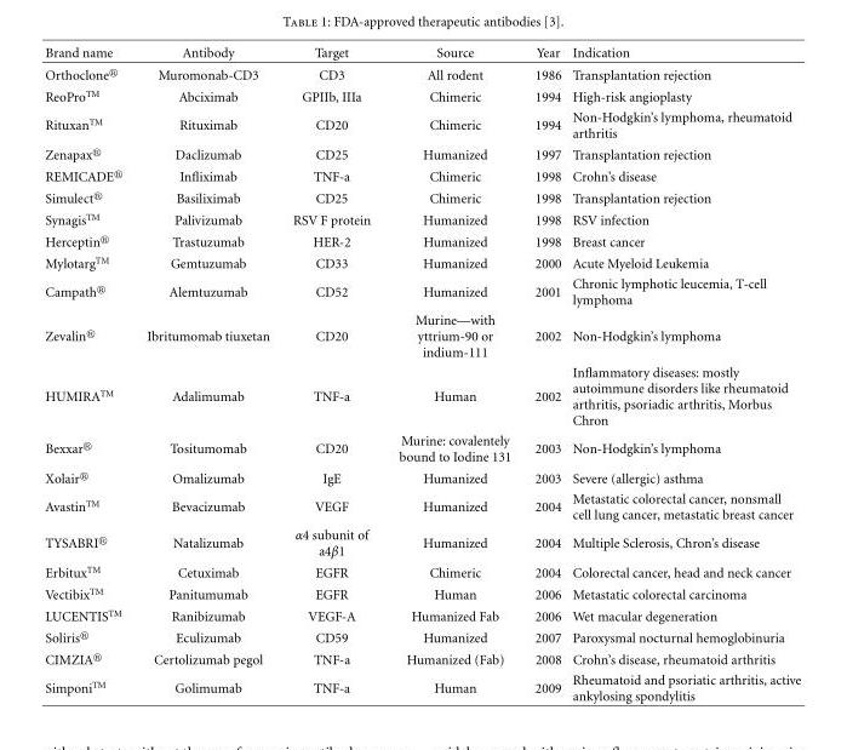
<table><thead><tr><td>Brand name</td><td>Antibody</td><td>Target</td><td>Source</td><td>Year</td><td>Indication</td></tr></thead><tbody><tr><td>Orthoclone<sup>®</sup></td><td>Muromonab-CD3</td><td>CD3</td><td>All rodent</td><td>1986</td><td>Transplantation rejection</td></tr><tr><td>ReoPro<sup>TM</sup></td><td>Abciximab</td><td>GPIIb, IIIa</td><td>Chimeric</td><td>1994</td><td>High-risk angioplasty</td></tr><tr><td>Rituxan<sup>TM</sup></td><td>Rituximab</td><td>CD20</td><td>Chimeric</td><td>1994</td><td>Non-Hodgkin’s lymphoma, rheumatoid arthritis</td></tr><tr><td>Zenapax<sup>®</sup></td><td>Daclizumab</td><td>CD25</td><td>Humanized</td><td>1997</td><td>Transplantation rejection</td></tr><tr><td>REMICADE<sup>®</sup></td><td>Infliximab</td><td>TNF-a</td><td>Chimeric</td><td>1998</td><td>Crohn’s disease</td></tr><tr><td>Simulect<sup>®</sup></td><td>Basiliximab</td><td>CD25</td><td>Chimeric</td><td>1998</td><td>Transplantation rejection</td></tr><tr><td>Synagis<sup>TM</sup></td><td>Palivizumab</td><td>RSV F protein</td><td>Humanized</td><td>1998</td><td>RSV infection</td></tr><tr><td>Herceptin<sup>®</sup></td><td>Trastuzumab</td><td>HER-2</td><td>Humanized</td><td>1998</td><td>Breast cancer</td></tr><tr><td>Mylotarg<sup>TM</sup></td><td>Gemtuzumab</td><td>CD33</td><td>Humanized</td><td>2000</td><td>Acute Myeloid Leukemia</td></tr><tr><td>Campath<sup>®</sup></td><td>Alemtuzumab</td><td>CD52</td><td>Humanized</td><td>2001</td><td>Chronic lymphotic leucemia, T-cell lymphoma</td></tr><tr><td>Zevalin<sup>®</sup></td><td>Ibritumomab tiuxetan</td><td>CD20</td><td>Murine—with yttrium-90 or indium-111</td><td>2002</td><td>Non-Hodgkin’s lymphoma</td></tr><tr><td>HUMIRA<sup>TM</sup></td><td>Adalimumab</td><td>TNF-a</td><td>Human</td><td>2002</td><td>Inflammatory diseases: mostly autoimmune disorders like rheumatoid arthritis, psoriadic arthritis, Morbus Chron</td></tr><tr><td>Bexxar<sup>®</sup></td><td>Tositumomab</td><td>CD20</td><td>Murine: covalentely bound to Iodine 131</td><td>2003</td><td>Non-Hodgkin’s lymphoma</td></tr><tr><td>Xolair<sup>®</sup></td><td>Omalizumab</td><td>IgE</td><td>Humanized</td><td>2003</td><td>Severe (allergic) asthma</td></tr><tr><td>Avastin<sup>TM</sup></td><td>Bevacizumab</td><td>VEGF</td><td>Humanized</td><td>2004</td><td>Metastatic colorectal cancer, nonsmall cell lung cancer, metastatic breast cancer</td></tr><tr><td>TYSABRI<sup>®</sup></td><td>Natalizumab</td><td>α4 subunit of a4β1</td><td>Humanized</td><td>2004</td><td>Multiple Sclerosis, Chron’s disease</td></tr><tr><td>Erbitux<sup>TM</sup></td><td>Cetuximab</td><td>EGFR</td><td>Chimeric</td><td>2004</td><td>Colorectal cancer, head and neck cancer</td></tr><tr><td>Vectibix<sup>TM</sup></td><td>Panitumumab</td><td>EGFR</td><td>Human</td><td>2006</td><td>Metastatic colorectal carcinoma</td></tr><tr><td>LUCENTIS<sup>TM</sup></td><td>Ranibizumab</td><td>VEGF-A</td><td>Humanized Fab</td><td>2006</td><td>Wet macular degeneration</td></tr><tr><td>Soliris<sup>®</sup></td><td>Eculizumab</td><td>CD59</td><td>Humanized</td><td>2007</td><td>Paroxysmal nocturnal hemoglobinuria</td></tr><tr><td>CIMZIA<sup>®</sup></td><td>Certolizumab pegol</td><td>TNF-a</td><td>Humanized (Fab)</td><td>2008</td><td>Crohn’s disease, rheumatoid arthritis</td></tr><tr><td>Simponi<sup>TM</sup></td><td>Golimumab</td><td>TNF-a</td><td>Human</td><td>2009</td><td>Rheumatoid and psoriatic arthritis, active ankylosing spondylitis</td></tr></tbody></table>